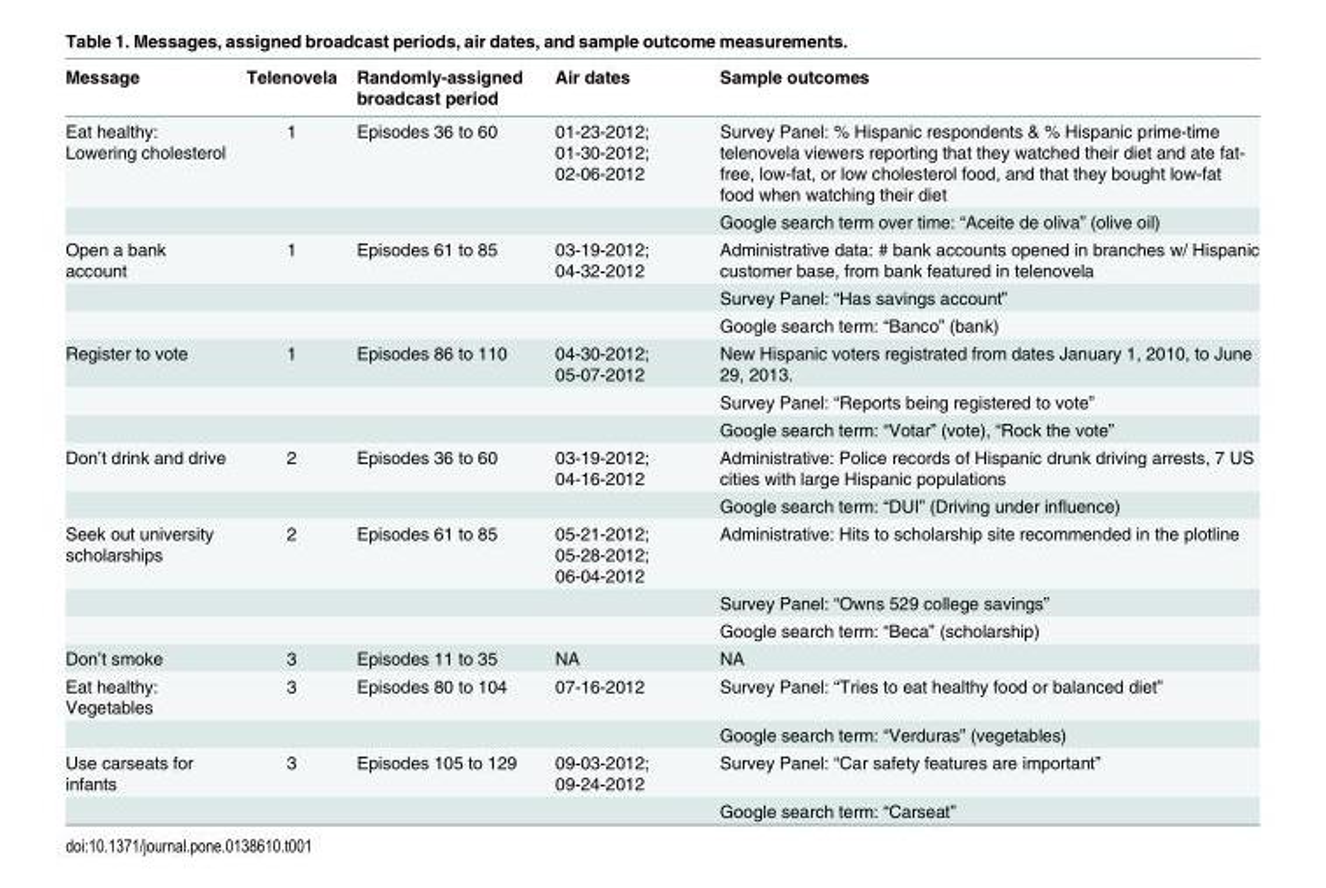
<table><thead><tr><td>Message</td><td>Telenovela</td><td>Randomly-assigned broadcast period</td><td>Air dates</td><td>Sample outcomes</td></tr></thead><tbody><tr><td rowspan="2">Eat healthy: Lowering cholesterol</td><td>1</td><td>Episodes 36 to 60</td><td>01-23-2012; 01-30-2012; 02-06-2012</td><td>Survey Panel: % Hispanic respondents &amp; % Hispanic prime-time telenovela viewers reporting that they watched their diet and ate fat- free, low-fat, or low cholesterol food, and that they bought low-fat food when watching their diet</td></tr><tr><td></td><td></td><td></td><td>Google search term over time: “Aceite de oliva” (olive oil)</td></tr><tr><td rowspan="3">Open a bank account</td><td>1</td><td>Episodes 61 to 85</td><td>03-19-2012; 04-32-2012</td><td>Administrative data: # bank accounts opened in branches w/ Hispanic customer base, from bank featured in telenovela</td></tr><tr><td></td><td></td><td></td><td>Survey Panel: “Has savings account”</td></tr><tr><td></td><td></td><td></td><td>Google search term: “Banco” (bank)</td></tr><tr><td rowspan="3">Register to vote</td><td>1</td><td>Episodes 86 to 110</td><td>04-30-2012; 05-07-2012</td><td>New Hispanic voters registrated from dates January 1, 2010, to June 29, 2013.</td></tr><tr><td></td><td></td><td></td><td>Survey Panel: “Reports being registered to vote”</td></tr><tr><td></td><td></td><td></td><td>Google search term: “Votar” (vote), “Rock the vote”</td></tr><tr><td rowspan="2">Don’t drink and drive</td><td>2</td><td>Episodes 36 to 60</td><td>03-19-2012; 04-16-2012</td><td>Administrative: Police records of Hispanic drunk driving arrests, 7 US cities with large Hispanic populations</td></tr><tr><td></td><td></td><td></td><td>Google search term: “DUI” (Driving under influence)</td></tr><tr><td rowspan="3">Seek out university scholarships</td><td>2</td><td>Episodes 61 to 85</td><td>05-21-2012; 05-28-2012; 06-04-2012</td><td>Administrative: Hits to scholarship site recommended in the plotline</td></tr><tr><td></td><td></td><td></td><td>Survey Panel: “Owns 529 college savings”</td></tr><tr><td></td><td></td><td></td><td>Google search term: “Beca” (scholarship)</td></tr><tr><td>Don’t smoke</td><td>3</td><td>Episodes 11 to 35</td><td>NA</td><td>NA</td></tr><tr><td rowspan="2">Eat healthy: Vegetables</td><td>3</td><td>Episodes 80 to 104</td><td>07-16-2012</td><td>Survey Panel: “Tries to eat healthy food or balanced diet”</td></tr><tr><td></td><td></td><td></td><td>Google search term: “Verduras” (vegetables)</td></tr><tr><td rowspan="2">Use carseats for infants</td><td>3</td><td>Episodes 105 to 129</td><td>09-03-2012; 09-24-2012</td><td>Survey Panel: “Car safety features are important”</td></tr><tr><td></td><td></td><td></td><td>Google search term: “Carseat”</td></tr></tbody></table>